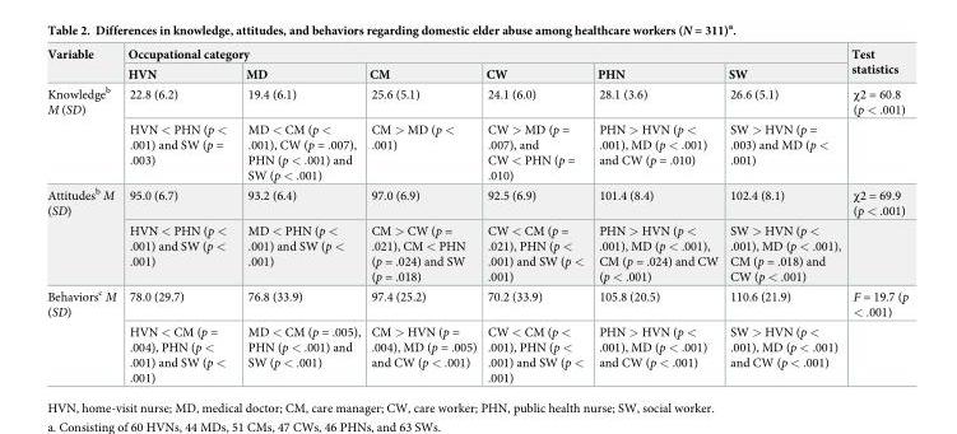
<table><thead><tr><td rowspan="2">Variable</td><td colspan="6">Occupational category</td><td rowspan="2">Test statistics</td></tr><tr><td>HVN</td><td>MD</td><td>CM</td><td>CW</td><td>PHN</td><td>SW</td></tr></thead><tbody><tr><td rowspan="2">Knowledge<sup>b</sup> M (SD)</td><td>22.8 (6.2)</td><td>19.4 (6.1)</td><td>25.6 (5.1)</td><td>24.1 (6.0)</td><td>28.1 (3.6)</td><td>26.6 (5.1)</td><td>χ2 = 60.8 (p &lt; .001)</td></tr><tr><td>HVN &lt; PHN (p &lt; .001) and SW (p = .003)</td><td>MD &lt; CM (p &lt; .001), CW (p = .007), PHN (p &lt; .001) and SW (p &lt; .001)</td><td>CM &gt; MD (p &lt; .001)</td><td>CW &gt; MD (p = .007), and CW &lt; PHN (p = .010)</td><td>PHN &gt; HVN (p &lt; .001), MD (p &lt; .001) and CW (p = .010)</td><td>SW &gt; HVN (p = .003) and MD (p &lt; .001)</td><td></td></tr><tr><td rowspan="2">Attitudes<sup>b</sup> M (SD)</td><td>95.0 (6.7)</td><td>93.2 (6.4)</td><td>97.0 (6.9)</td><td>92.5 (6.9)</td><td>101.4 (8.4)</td><td>102.4 (8.1)</td><td>χ2 = 69.9 (p &lt; .001)</td></tr><tr><td>HVN &lt; PHN (p &lt; .001) and SW (p &lt; .001)</td><td>MD &lt; PHN (p &lt; .001) and SW (p &lt; .001)</td><td>CM &gt; CW (p = .021), CM &lt; PHN (p = .024) and SW (p = .018)</td><td>CW &lt; CM (p = .021), PHN (p &lt; .001) and SW (p &lt; .001)</td><td>PHN &gt; HVN (p &lt; .001), MD (p &lt; .001), CM (p = .024) and CW (p &lt; .001)</td><td>SW &gt; HVN (p &lt; .001), MD (p &lt; .001), CM (p = .018) and CW (p &lt; .001)</td><td></td></tr><tr><td rowspan="2">Behaviors<sup>c</sup> M (SD)</td><td>78.0 (29.7)</td><td>76.8 (33.9)</td><td>97.4 (25.2)</td><td>70.2 (33.9)</td><td>105.8 (20.5)</td><td>110.6 (21.9)</td><td>F = 19.7 (p &lt; .001)</td></tr><tr><td>HVN &lt; CM (p = .004), PHN (p &lt; .001) and SW (p &lt; .001)</td><td>MD &lt; CM (p = .005), PHN (p &lt; .001) and SW (p &lt; .001)</td><td>CM &gt; HVN (p = .004), MD (p = .005) and CW (p &lt; .001)</td><td>CW &lt; CM (p &lt; .001), PHN (p &lt; .001) and SW (p &lt; .001)</td><td>PHN &gt; HVN (p &lt; .001), MD (p &lt; .001) and CW (p &lt; .001)</td><td>SW &gt; HVN (p &lt; .001), MD (p &lt; .001) and CW (p &lt; .001)</td><td></td></tr></tbody></table>